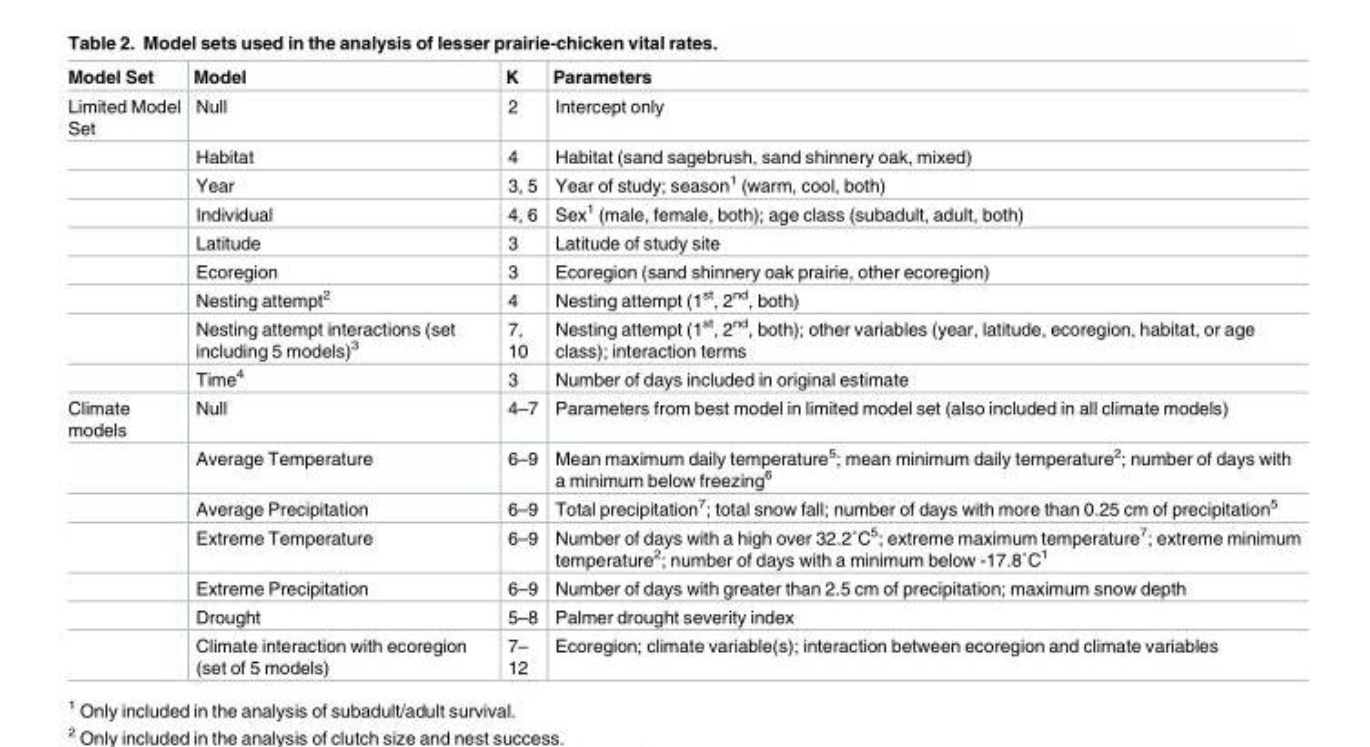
<table><thead><tr><td>Model Set</td><td>Model</td><td>K</td><td>Parameters</td></tr></thead><tbody><tr><td rowspan="9">Limited Model Set</td><td>Null</td><td>2</td><td>Intercept only</td></tr><tr><td>Habitat</td><td>4</td><td>Habitat (sand sagebrush, sand shinnery oak, mixed)</td></tr><tr><td>Year</td><td>3, 5</td><td>Year of study; season<sup>1</sup> (warm, cool, both)</td></tr><tr><td>Individual</td><td>4, 6</td><td>Sex<sup>1</sup> (male, female, both); age class (subadult, adult, both)</td></tr><tr><td>Latitude</td><td>3</td><td>Latitude of study site</td></tr><tr><td>Ecoregion</td><td>3</td><td>Ecoregion (sand shinnery oak prairie, other ecoregion)</td></tr><tr><td>Nesting attempt<sup>2</sup></td><td>4</td><td>Nesting attempt (1<sup>st</sup>, 2<sup>nd</sup>, both)</td></tr><tr><td>Nesting attempt interactions (set including 5 models)<sup>3</sup></td><td>7, 10</td><td>Nesting attempt (1<sup>st</sup>, 2<sup>nd</sup>, both); other variables (year, latitude, ecoregion, habitat, or age class); interaction terms</td></tr><tr><td>Time<sup>4</sup></td><td>3</td><td>Number of days included in original estimate</td></tr><tr><td rowspan="7">Climate models</td><td>Null</td><td>4–7</td><td>Parameters from best model in limited model set (also included in all climate models)</td></tr><tr><td>Average Temperature</td><td>6–9</td><td>Mean maximum daily temperature<sup>5</sup>; mean minimum daily temperature<sup>2</sup>; number of days with a minimum below freezing<sup>6</sup></td></tr><tr><td>Average Precipitation</td><td>6–9</td><td>Total precipitation<sup>7</sup>; total snow fall; number of days with more than 0.25 cm of precipitation<sup>5</sup></td></tr><tr><td>Extreme Temperature</td><td>6–9</td><td>Number of days with a high over 32.2˚C5; extreme maximum temperature7; extreme minimum temperature2; number of days with a minimum below -17.8˚C1</td></tr><tr><td>Extreme Precipitation</td><td>6–9</td><td>Number of days with greater than 2.5 cm of precipitation; maximum snow depth</td></tr><tr><td>Drought</td><td>5–8</td><td>Palmer drought severity index</td></tr><tr><td>Climate interaction with ecoregion (set of 5 models)</td><td>7– 12</td><td>Ecoregion; climate variable(s); interaction between ecoregion and climate variables</td></tr></tbody></table>